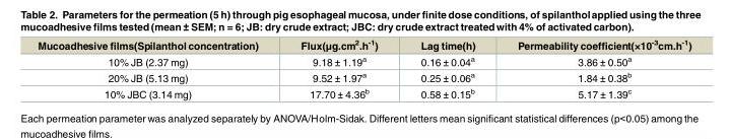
<table><thead><tr><td>Mucoadhesive films(Spilanthol concentration)</td><td>Flux(μg.cm<sup>2</sup>.h<sup>-1</sup>)</td><td>Lag time(h)</td><td>Permeability coefficient(×10<sup>-3</sup>cm.h<sup>-1</sup>)</td></tr></thead><tbody><tr><td>10% JB (2.37 mg)</td><td>9.18 ± 1.19<sup>a</sup></td><td>0.16 ± 0.04<sup>a</sup></td><td>3.86 ± 0.50<sup>a</sup></td></tr><tr><td>20% JB (5.13 mg)</td><td>9.52 ± 1.97<sup>a</sup></td><td>0.25 ± 0.06<sup>a</sup></td><td>1.84 ± 0.38<sup>b</sup></td></tr><tr><td>10% JBC (3.14 mg)</td><td>17.70 ± 4.36<sup>b</sup></td><td>0.58 ± 0.15<sup>b</sup></td><td>5.17 ± 1.39<sup>c</sup></td></tr></tbody></table>